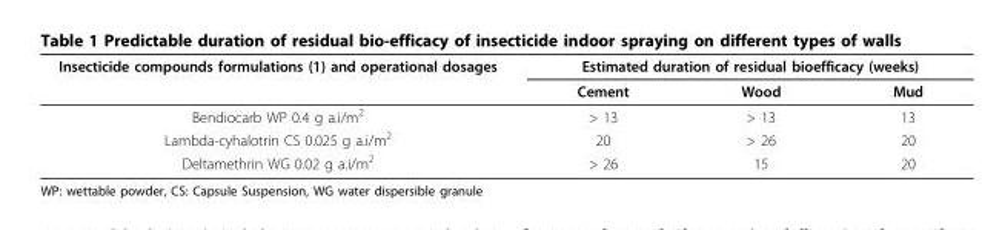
<table><thead><tr><td rowspan="2">Insecticide compounds formulations (1) and operational dosages</td><td colspan="3">Estimated duration of residual bioefficacy (weeks)</td></tr><tr><td>Cement</td><td>Wood</td><td>Mud</td></tr></thead><tbody><tr><td>Bendiocarb WP 0.4 g a.i/m<sup>2</sup></td><td>&gt; 13</td><td>&gt; 13</td><td>13</td></tr><tr><td>Lambda-cyhalotrin CS 0.025 g a.i/m<sup>2</sup></td><td>20</td><td>&gt; 26</td><td>20</td></tr><tr><td>Deltamethrin WG 0.02 g a.i/m<sup>2</sup></td><td>&gt; 26</td><td>15</td><td>20</td></tr></tbody></table>